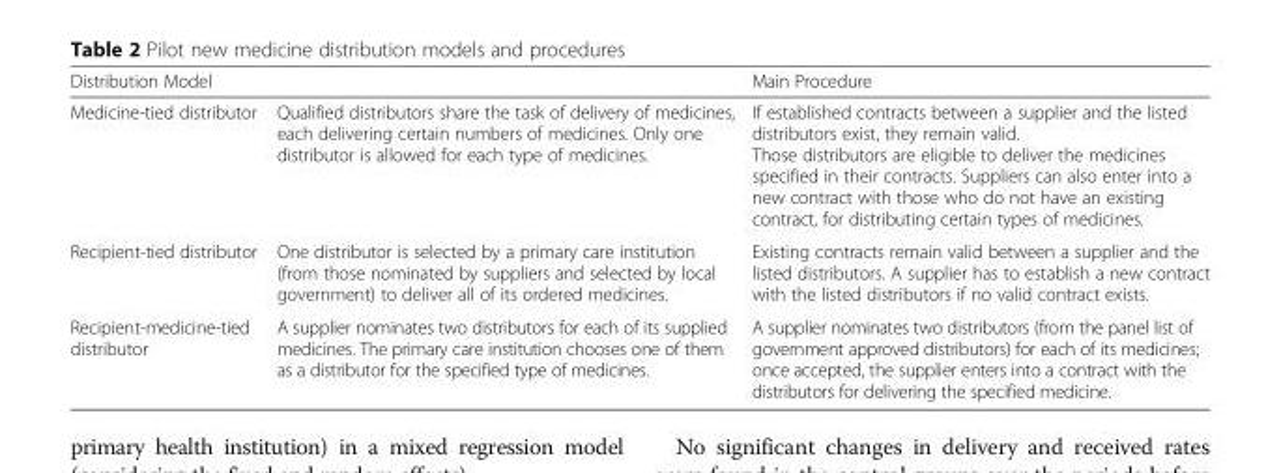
<table><thead><tr><td colspan="2">Distribution Model</td><td rowspan="2">Main Procedure If established contracts between a supplier and the listed distributors exist, they remain valid. Those distributors are eligible to deliver the medicines specified in their contracts. Suppliers can also enter into a new contract with those who do not have an existing contract, for distributing certain types of medicines.</td></tr><tr><td>Medicine-tied distributor</td><td>Qualified distributors share the task of delivery of medicines, each delivering certain numbers of medicines. Only one distributor is allowed for each type of medicines.</td></tr></thead><tbody><tr><td>Recipient-tied distributor</td><td>One distributor is selected by a primary care institution (from those nominated by suppliers and selected by local government) to deliver all of its ordered medicines.</td><td>Existing contracts remain valid between a supplier and the listed distributors. A supplier has to establish a new contract with the listed distributors if no valid contract exists.</td></tr><tr><td>Recipient-medicine-tied distributor</td><td>A supplier nominates two distributors for each of its supplied medicines. The primary care institution chooses one of them as a distributor for the specified type of medicines.</td><td>A supplier nominates two distributors (from the panel list of government approved distributors) for each of its medicines; once accepted, the supplier enters into a contract with the distributors for delivering the specified medicine.</td></tr></tbody></table>